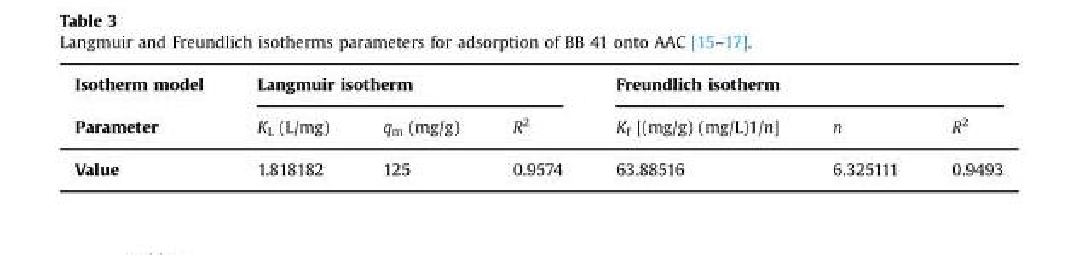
<table><thead><tr><td rowspan="2">Isotherm model Parameter</td><td colspan="3">Langmuir isotherm</td><td colspan="3">Freundlich isotherm</td></tr><tr><td>K<sub>L</sub> (L/mg)</td><td>q<sub>m</sub> (mg/g)</td><td>R<sup>2</sup></td><td>K<sub>f</sub> [(mg/g) (mg/L)1/n]</td><td>n</td><td>R<sup>2</sup></td></tr></thead><tbody><tr><td>Value</td><td>1.818182</td><td>125</td><td>0.9574</td><td>63.88516</td><td>6.325111</td><td>0.9493</td></tr></tbody></table>